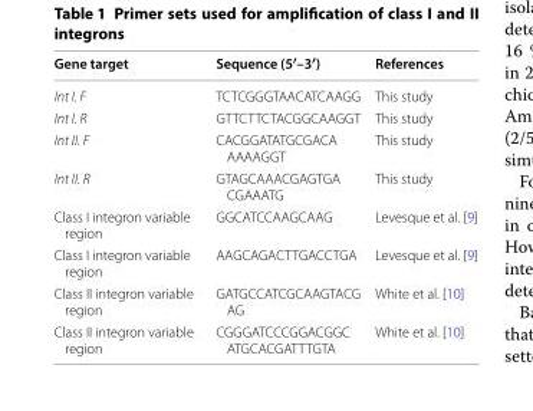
<table><thead><tr><td>Gene target</td><td>Sequence (5′–3′)</td><td>References</td></tr></thead><tbody><tr><td>Int I. F</td><td>TCTCGGGTAACATCAAGG</td><td>This study</td></tr><tr><td>Int I. R</td><td>GTTCTTCTACGGCAAGGT</td><td>This study</td></tr><tr><td>Int II. F</td><td>CACGGATATGCGACA AAAAGGT</td><td>This study</td></tr><tr><td>Int II. R</td><td>GTAGCAAACGAGTGA CGAAATG</td><td>This study</td></tr><tr><td>Class I integron variable region</td><td>GGCATCCAAGCAAG</td><td>Levesque et al. [9]</td></tr><tr><td>Class I integron variable region</td><td>AAGCAGACTTGACCTGA</td><td>Levesque et al. [9]</td></tr><tr><td>Class II integron variable region</td><td>GATGCCATCGCAAGTACG AG</td><td>White et al. [10]</td></tr><tr><td>Class II integron variable region</td><td>CGGGATCCCGGACGGC ATGCACGATTTGTA</td><td>White et al. [10]</td></tr></tbody></table>